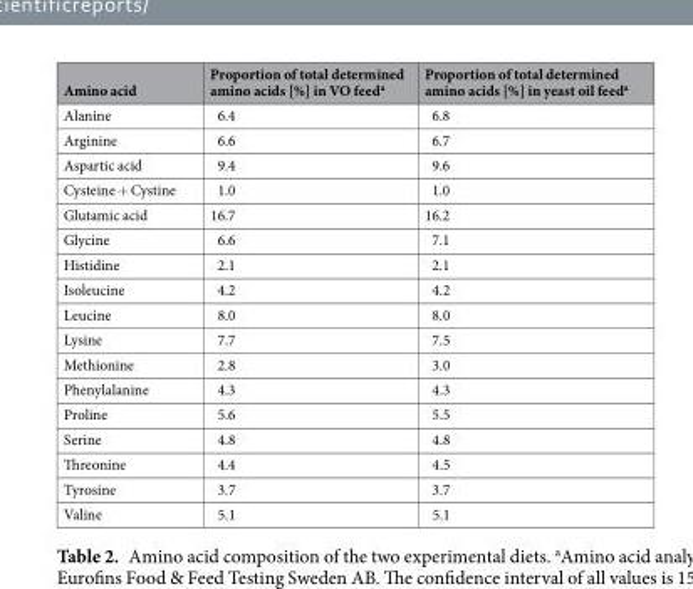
<table><thead><tr><td>Amino acid</td><td>Proportion of total determined amino acids [%] in VO feed<sup>a</sup></td><td>Proportion of total determined amino acids [%] in yeast oil feed<sup>a</sup></td></tr></thead><tbody><tr><td>Alanine</td><td>6.4</td><td>6.8</td></tr><tr><td>Arginine</td><td>6.6</td><td>6.7</td></tr><tr><td>Aspartic acid</td><td>9.4</td><td>9.6</td></tr><tr><td>Cysteine + Cystine</td><td>1.0</td><td>1.0</td></tr><tr><td>Glutamic acid</td><td>16.7</td><td>16.2</td></tr><tr><td>Glycine</td><td>6.6</td><td>7.1</td></tr><tr><td>Histidine</td><td>2.1</td><td>2.1</td></tr><tr><td>Isoleucine</td><td>4.2</td><td>4.2</td></tr><tr><td>Leucine</td><td>8.0</td><td>8.0</td></tr><tr><td>Lysine</td><td>7.7</td><td>7.5</td></tr><tr><td>Methionine</td><td>2.8</td><td>3.0</td></tr><tr><td>Phenylalanine</td><td>4.3</td><td>4.3</td></tr><tr><td>Proline</td><td>5.6</td><td>5.5</td></tr><tr><td>Serine</td><td>4.8</td><td>4.8</td></tr><tr><td>Threonine</td><td>4.4</td><td>4.5</td></tr><tr><td>Tyrosine</td><td>3.7</td><td>3.7</td></tr><tr><td>Valine</td><td>5.1</td><td>5.1</td></tr></tbody></table>